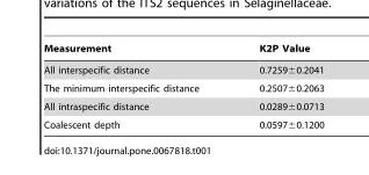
<table><thead><tr><td>Measurement</td><td>K2P Value</td></tr></thead><tbody><tr><td>All interspecific distance</td><td>0.7259±0.2041</td></tr><tr><td>The minimum interspecific distance</td><td>0.2507±0.2063</td></tr><tr><td>All intraspecific distance</td><td>0.0289±0.0713</td></tr><tr><td>Coalescent depth</td><td>0.0597±0.1200</td></tr></tbody></table>